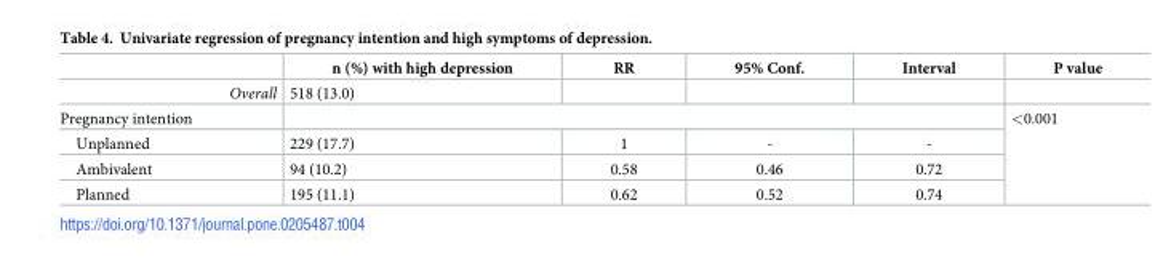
<table><thead><tr><td></td><td>n (%) with high depression</td><td>RR</td><td>95% Conf.</td><td>Interval</td><td>P value</td></tr></thead><tbody><tr><td>Overall</td><td>518 (13.0)</td><td></td><td></td><td></td><td></td></tr><tr><td colspan="5">Pregnancy intention</td><td rowspan="4">&lt;0.001</td></tr><tr><td>Unplanned</td><td>229 (17.7)</td><td>1</td><td>-</td><td>-</td></tr><tr><td>Ambivalent</td><td>94 (10.2)</td><td>0.58</td><td>0.46</td><td>0.72</td></tr><tr><td>Planned</td><td>195 (11.1)</td><td>0.62</td><td>0.52</td><td>0.74</td></tr></tbody></table>